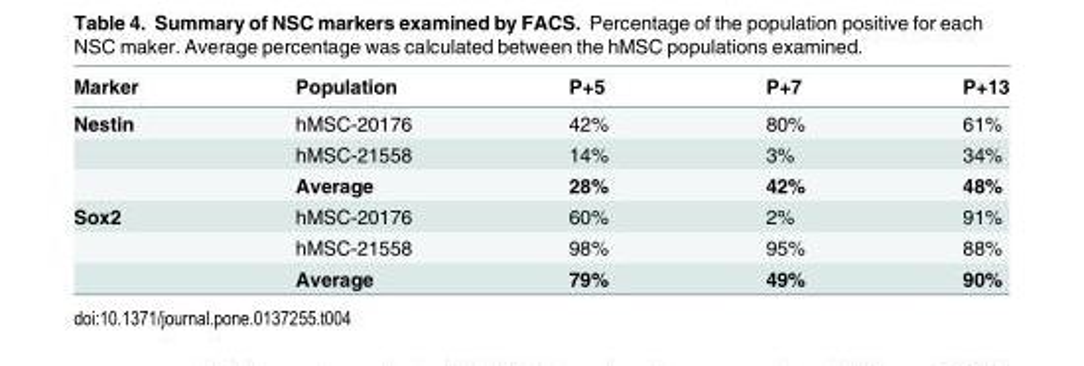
<table><thead><tr><td>Marker</td><td>Population</td><td>P+5</td><td>P+7</td><td>P+13</td></tr></thead><tbody><tr><td rowspan="3">Nestin</td><td>hMSC-20176</td><td>42%</td><td>80%</td><td>61%</td></tr><tr><td>hMSC-21558</td><td>14%</td><td>3%</td><td>34%</td></tr><tr><td>Average</td><td>28%</td><td>42%</td><td>48%</td></tr><tr><td rowspan="3">Sox2</td><td>hMSC-20176</td><td>60%</td><td>2%</td><td>91%</td></tr><tr><td>hMSC-21558</td><td>98%</td><td>95%</td><td>88%</td></tr><tr><td>Average</td><td>79%</td><td>49%</td><td>90%</td></tr></tbody></table>